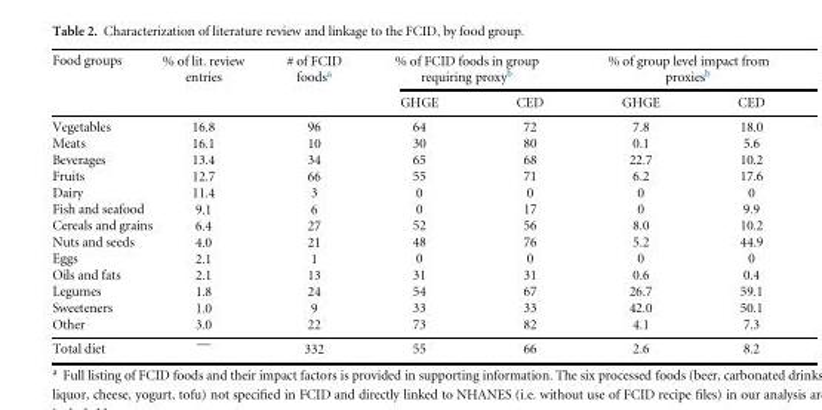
<table><thead><tr><td rowspan="2">Food groups</td><td rowspan="2">% of lit. review entries</td><td rowspan="2"># of FCID foods<sup>a</sup></td><td colspan="2">% of FCID foods in group requiring proxy<sup>b</sup></td><td colspan="2">% of group level impact from proxies<sup>b</sup></td></tr><tr><td>GHGE</td><td>CED</td><td>GHGE</td><td>CED</td></tr></thead><tbody><tr><td>Vegetables</td><td>16.8</td><td>96</td><td>64</td><td>72</td><td>7.8</td><td>18.0</td></tr><tr><td>Meats</td><td>16.1</td><td>10</td><td>30</td><td>80</td><td>0.1</td><td>5.6</td></tr><tr><td>Beverages</td><td>13.4</td><td>34</td><td>65</td><td>68</td><td>22.7</td><td>10.2</td></tr><tr><td>Fruits</td><td>12.7</td><td>66</td><td>55</td><td>71</td><td>6.2</td><td>17.6</td></tr><tr><td>Dairy</td><td>11.4</td><td>3</td><td>0</td><td>0</td><td>0</td><td>0</td></tr><tr><td>Fish and seafood</td><td>9.1</td><td>6</td><td>0</td><td>17</td><td>0</td><td>9.9</td></tr><tr><td>Cereals and grains</td><td>6.4</td><td>27</td><td>52</td><td>56</td><td>8.0</td><td>10.2</td></tr><tr><td>Nuts and seeds</td><td>4.0</td><td>21</td><td>48</td><td>76</td><td>5.2</td><td>44.9</td></tr><tr><td>Eggs</td><td>2.1</td><td>1</td><td>0</td><td>0</td><td>0</td><td>0</td></tr><tr><td>Oils and fats</td><td>2.1</td><td>13</td><td>31</td><td>31</td><td>0.6</td><td>0.4</td></tr><tr><td>Legumes</td><td>1.8</td><td>24</td><td>54</td><td>67</td><td>26.7</td><td>59.1</td></tr><tr><td>Sweeteners</td><td>1.0</td><td>9</td><td>33</td><td>33</td><td>42.0</td><td>50.1</td></tr><tr><td>Other</td><td>3.0</td><td>22</td><td>73</td><td>82</td><td>4.1</td><td>7.3</td></tr><tr><td>Total diet</td><td>—</td><td>332</td><td>55</td><td>66</td><td>2.6</td><td>8.2</td></tr></tbody></table>